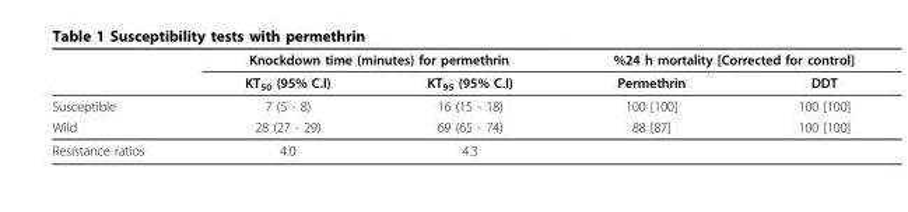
<table><thead><tr><td rowspan="2"></td><td colspan="2">Knockdown time (minutes) for permethrin</td><td colspan="2">%24 h mortality [Corrected for control]</td></tr><tr><td>KT<sub>50</sub> (95% C.I)</td><td>KT<sub>95</sub> (95% C.I)</td><td>Permethrin</td><td>DDT</td></tr></thead><tbody><tr><td>Susceptible</td><td>7 (5 - 8)</td><td>16 (15 - 18)</td><td>100 [100]</td><td>100 [100]</td></tr><tr><td>Wild</td><td>28 (27 - 29)</td><td>69 (65 - 74)</td><td>88 [87]</td><td>100 [100]</td></tr><tr><td>Resistance ratios</td><td>4.0</td><td>4.3</td><td></td><td></td></tr></tbody></table>